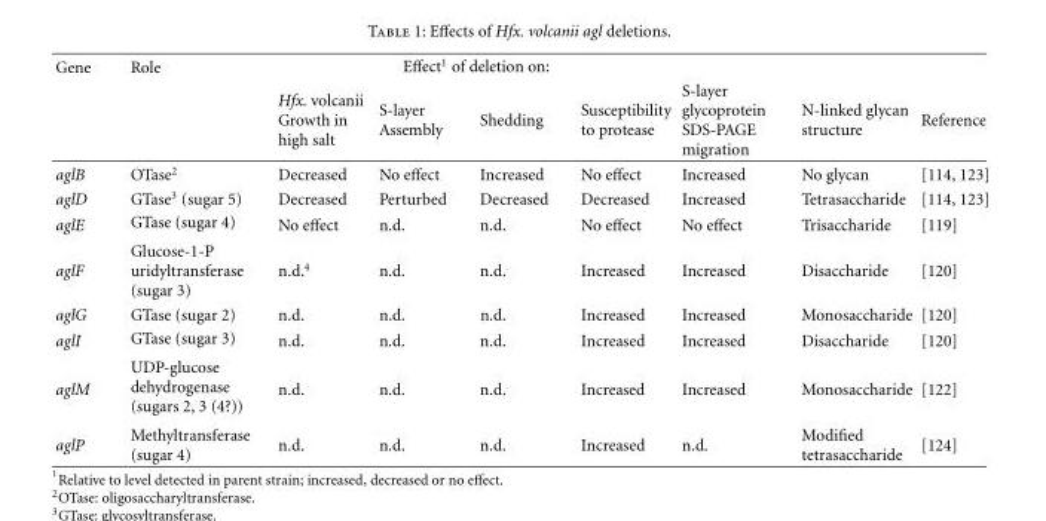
<table><thead><tr><td rowspan="2">Gene</td><td rowspan="2">Role</td><td colspan="4">Effect<sup>1</sup> of deletion on:</td><td rowspan="2">S-layer glycoprotein SDS-PAGE migration</td><td rowspan="2">N-linked glycan structure</td><td rowspan="2">Reference</td></tr><tr><td>Hfx. volcanii Growth in high salt</td><td>S-layer Assembly</td><td>Shedding</td><td>Susceptibility to protease</td></tr></thead><tbody><tr><td>aglB</td><td>OTase<sup>2</sup></td><td>Decreased</td><td>No effect</td><td>Increased</td><td>No effect</td><td>Increased</td><td>No glycan</td><td>[114, 123]</td></tr><tr><td>aglD</td><td>GTase<sup>3</sup> (sugar 5)</td><td>Decreased</td><td>Perturbed</td><td>Decreased</td><td>Decreased</td><td>Increased</td><td>Tetrasaccharide</td><td>[114, 123]</td></tr><tr><td>aglE</td><td>GTase (sugar 4)</td><td>No effect</td><td>n.d.</td><td>n.d.</td><td>No effect</td><td>No effect</td><td>Trisaccharide</td><td>[119]</td></tr><tr><td>aglF</td><td>Glucose-1-P uridyltransferase (sugar 3)</td><td>n.d.<sup>4</sup></td><td>n.d.</td><td>n.d.</td><td>Increased</td><td>Increased</td><td>Disaccharide</td><td>[120]</td></tr><tr><td>aglG</td><td>GTase (sugar 2)</td><td>n.d.</td><td>n.d.</td><td>n.d.</td><td>Increased</td><td>Increased</td><td>Monosaccharide</td><td>[120]</td></tr><tr><td>aglI</td><td>GTase (sugar 3)</td><td>n.d.</td><td>n.d.</td><td>n.d.</td><td>Increased</td><td>Increased</td><td>Disaccharide</td><td>[120]</td></tr><tr><td>aglM</td><td>UDP-glucose dehydrogenase (sugars 2, 3 (4?))</td><td>n.d.</td><td>n.d.</td><td>n.d.</td><td>Increased</td><td>Increased</td><td>Monosaccharide</td><td>[122]</td></tr><tr><td>aglP</td><td>Methyltransferase (sugar 4)</td><td>n.d.</td><td>n.d.</td><td>n.d.</td><td>Increased</td><td>n.d.</td><td>Modified tetrasaccharide</td><td>[124]</td></tr></tbody></table>